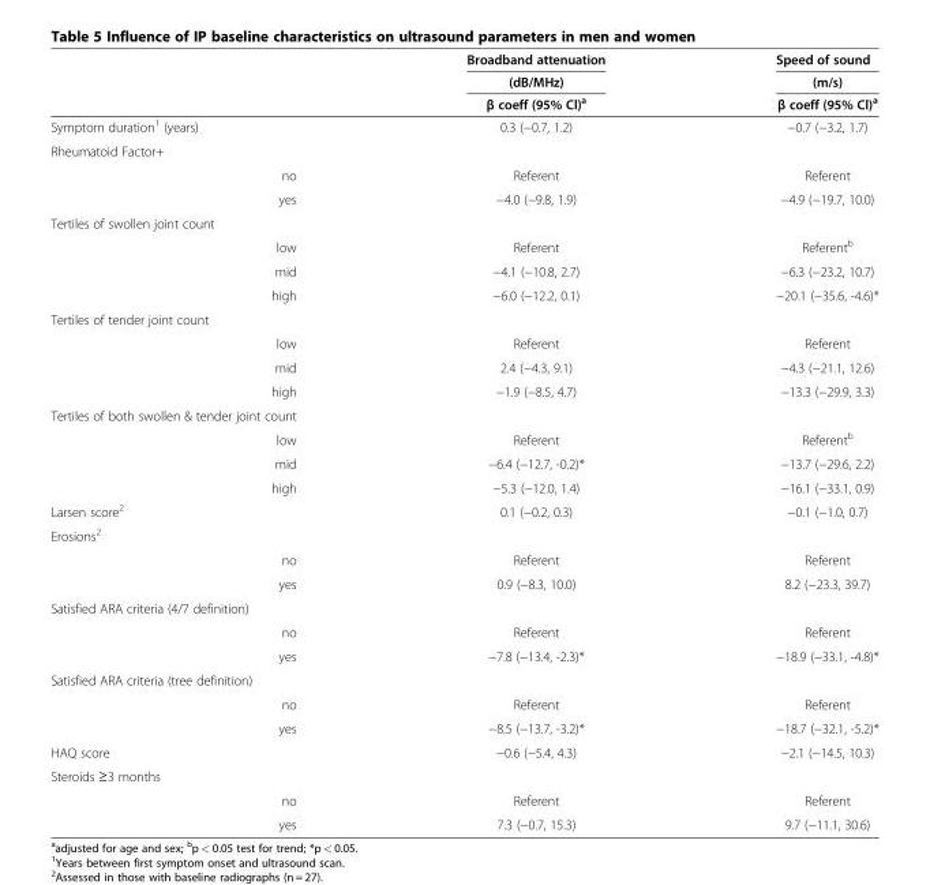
<table><thead><tr><td rowspan="3"></td><td rowspan="3">Broadband attenuation (dB/MHz) β coeff (95% Cl)<sup>a</sup></td><td rowspan="3">Speed of sound (m/s) β coeff (95% Cl)<sup>a</sup></td></tr><tr></tr><tr></tr></thead><tbody><tr><td>Symptom duration<sup>1</sup> (years)</td><td>0.3 (−0.7, 1.2)</td><td>−0.7 (−3.2, 1.7)</td></tr><tr><td colspan="3">Rheumatoid Factor+</td></tr><tr><td>no</td><td>Referent</td><td>Referent</td></tr><tr><td>yes</td><td>−4.0 (−9.8, 1.9)</td><td>−4.9 (−19.7, 10.0)</td></tr><tr><td colspan="3">Tertiles of swollen joint count</td></tr><tr><td>low</td><td>Referent</td><td>Referent<sup>b</sup></td></tr><tr><td>mid</td><td>−4.1 (−10.8, 2.7)</td><td>−6.3 (−23.2, 10.7)</td></tr><tr><td>high</td><td>−6.0 (−12.2, 0.1)</td><td>−20.1 (−35.6, -4.6)*</td></tr><tr><td colspan="3">Tertiles of tender joint count</td></tr><tr><td>low</td><td>Referent</td><td>Referent</td></tr><tr><td>mid</td><td>2.4 (−4.3, 9.1)</td><td>−4.3 (−21.1, 12.6)</td></tr><tr><td>high</td><td>−1.9 (−8.5, 4.7)</td><td>−13.3 (−29.9, 3.3)</td></tr><tr><td colspan="3">Tertiles of both swollen &amp; tender joint count</td></tr><tr><td>low</td><td>Referent</td><td>Referent<sup>b</sup></td></tr><tr><td>mid</td><td>−6.4 (−12.7, -0.2)*</td><td>−13.7 (−29.6, 2.2)</td></tr><tr><td>high</td><td>−5.3 (−12.0, 1.4)</td><td>−16.1 (−33.1, 0.9)</td></tr><tr><td>Larsen score<sup>2</sup></td><td>0.1 (−0.2, 0.3)</td><td>−0.1 (−1.0, 0.7)</td></tr><tr><td colspan="3">Erosions<sup>2</sup></td></tr><tr><td>no</td><td>Referent</td><td>Referent</td></tr><tr><td>yes</td><td>0.9 (−8.3, 10.0)</td><td>8.2 (−23.3, 39.7)</td></tr><tr><td colspan="3">Satisfied ARA criteria (4/7 definition)</td></tr><tr><td>no</td><td>Referent</td><td>Referent</td></tr><tr><td>yes</td><td>−7.8 (−13.4, -2.3)*</td><td>−18.9 (−33.1, -4.8)*</td></tr><tr><td colspan="3">Satisfied ARA criteria (tree definition)</td></tr><tr><td>no</td><td>Referent</td><td>Referent</td></tr><tr><td>yes</td><td>−8.5 (−13.7, -3.2)*</td><td>−18.7 (−32.1, -5.2)*</td></tr><tr><td>HAQ score</td><td>−0.6 (−5.4, 4.3)</td><td>−2.1 (−14.5, 10.3)</td></tr><tr><td colspan="3">Steroids ≥3 months</td></tr><tr><td>no</td><td>Referent</td><td>Referent</td></tr><tr><td>yes</td><td>7.3 (−0.7, 15.3)</td><td>9.7 (−11.1, 30.6)</td></tr></tbody></table>